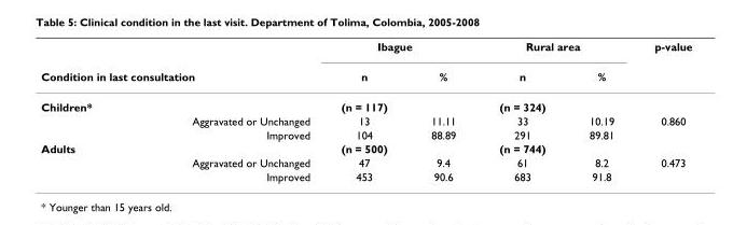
<table><thead><tr><td rowspan="2">Condition in last consultation</td><td colspan="2">Ibague</td><td colspan="2">Rural area</td><td rowspan="2">p-value</td></tr><tr><td>n</td><td>%</td><td>n</td><td>%</td></tr></thead><tbody><tr><td>Children*</td><td>(n = 117)</td><td></td><td>(n = 324)</td><td></td><td></td></tr><tr><td>Aggravated or Unchanged</td><td>13</td><td>11.11</td><td>33</td><td>10.19</td><td>0.860</td></tr><tr><td>Improved</td><td>104</td><td>88.89</td><td>291</td><td>89.81</td><td></td></tr><tr><td>Adults</td><td>(n = 500)</td><td></td><td>(n = 744)</td><td></td><td></td></tr><tr><td>Aggravated or Unchanged</td><td>47</td><td>9.4</td><td>61</td><td>8.2</td><td>0.473</td></tr><tr><td>Improved</td><td>453</td><td>90.6</td><td>683</td><td>91.8</td><td></td></tr></tbody></table>